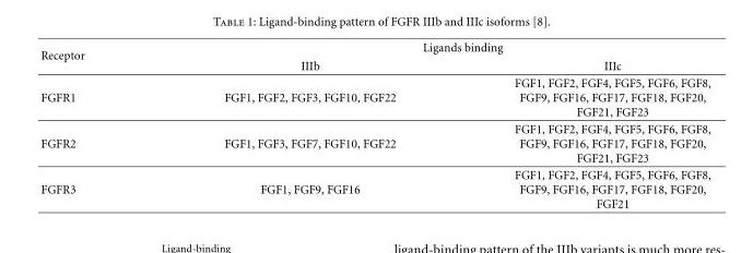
<table><thead><tr><td rowspan="2">Receptor</td><td colspan="2">Ligands binding</td></tr><tr><td>IIIb</td><td>IIIc</td></tr></thead><tbody><tr><td>FGFR1</td><td>FGF1, FGF2, FGF3, FGF10, FGF22</td><td>FGF1, FGF2, FGF4, FGF5, FGF6, FGF8, FGF9, FGF16, FGF17, FGF18, FGF20, FGF21, FGF23</td></tr><tr><td>FGFR2</td><td>FGF1, FGF3, FGF7, FGF10, FGF22</td><td>FGF1, FGF2, FGF4, FGF5, FGF6, FGF8, FGF9, FGF16, FGF17, FGF18, FGF20, FGF21, FGF23</td></tr><tr><td>FGFR3</td><td>FGF1, FGF9, FGF16</td><td>FGF1, FGF2, FGF4, FGF5, FGF6, FGF8, FGF9, FGF16, FGF17, FGF18, FGF20, FGF21</td></tr></tbody></table>